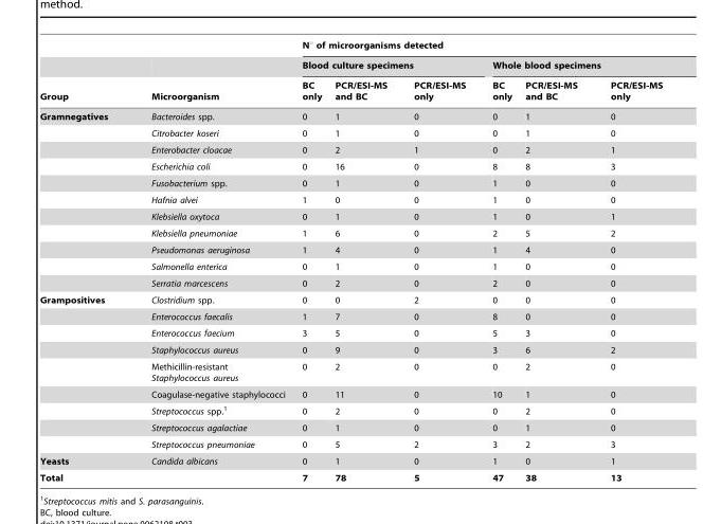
<table><thead><tr><td rowspan="3">Group</td><td rowspan="3">Microorganism</td><td colspan="6">N° of microorganisms detected</td></tr><tr><td colspan="3">Blood culture specimens</td><td colspan="3">Whole blood specimens</td></tr><tr><td>BC only</td><td>PCR/ESI-MS and BC</td><td>PCR/ESI-MS only</td><td>BC only</td><td>PCR/ESI-MS and BC</td><td>PCR/ESI-MS only</td></tr></thead><tbody><tr><td rowspan="11">Gramnegatives</td><td>Bacteroides spp.</td><td>0</td><td>1</td><td>0</td><td>0</td><td>1</td><td>0</td></tr><tr><td>Citrobacter koseri</td><td>0</td><td>1</td><td>0</td><td>0</td><td>1</td><td>0</td></tr><tr><td>Enterobacter cloacae</td><td>0</td><td>2</td><td>1</td><td>0</td><td>2</td><td>1</td></tr><tr><td>Escherichia coli</td><td>0</td><td>16</td><td>0</td><td>8</td><td>8</td><td>3</td></tr><tr><td>Fusobacterium spp.</td><td>0</td><td>1</td><td>0</td><td>1</td><td>0</td><td>0</td></tr><tr><td>Hafnia alvei</td><td>1</td><td>0</td><td>0</td><td>1</td><td>0</td><td>0</td></tr><tr><td>Klebsiella oxytoca</td><td>0</td><td>1</td><td>0</td><td>1</td><td>0</td><td>1</td></tr><tr><td>Klebsiella pneumoniae</td><td>1</td><td>6</td><td>0</td><td>2</td><td>5</td><td>2</td></tr><tr><td>Pseudomonas aeruginosa</td><td>1</td><td>4</td><td>0</td><td>1</td><td>4</td><td>0</td></tr><tr><td>Salmonella enterica</td><td>0</td><td>1</td><td>0</td><td>1</td><td>0</td><td>0</td></tr><tr><td>Serratia marcescens</td><td>0</td><td>2</td><td>0</td><td>2</td><td>0</td><td>0</td></tr><tr><td rowspan="9">Grampositives</td><td>Clostridium spp.</td><td>0</td><td>0</td><td>2</td><td>0</td><td>0</td><td>0</td></tr><tr><td>Enterococcus faecalis</td><td>1</td><td>7</td><td>0</td><td>8</td><td>0</td><td>0</td></tr><tr><td>Enterococcus faecium</td><td>3</td><td>5</td><td>0</td><td>5</td><td>3</td><td>0</td></tr><tr><td>Staphylococcus aureus</td><td>0</td><td>9</td><td>0</td><td>3</td><td>6</td><td>2</td></tr><tr><td>Methicillin-resistant Staphylococcus aureus</td><td>0</td><td>2</td><td>0</td><td>0</td><td>2</td><td>0</td></tr><tr><td>Coagulase-negative staphylococci</td><td>0</td><td>11</td><td>0</td><td>10</td><td>1</td><td>0</td></tr><tr><td>Streptococcus spp.<sup>1</sup></td><td>0</td><td>2</td><td>0</td><td>0</td><td>2</td><td>0</td></tr><tr><td>Streptococcus agalactiae</td><td>0</td><td>1</td><td>0</td><td>0</td><td>1</td><td>0</td></tr><tr><td>Streptococcus pneumoniae</td><td>0</td><td>5</td><td>2</td><td>3</td><td>2</td><td>3</td></tr><tr><td>Yeasts</td><td>Candida albicans</td><td>0</td><td>1</td><td>0</td><td>1</td><td>0</td><td>1</td></tr><tr><td>Total</td><td></td><td>7</td><td>78</td><td>5</td><td>47</td><td>38</td><td>13</td></tr></tbody></table>